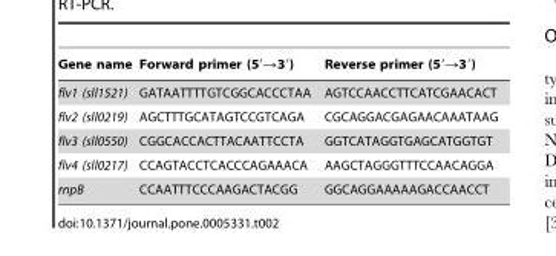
<table><thead><tr><td>Gene name</td><td>Forward primer (5′→3′)</td><td>Reverse primer (5′→3′)</td></tr></thead><tbody><tr><td>flv1 (sll1521)</td><td>GATAATTTTGTCGGCACCCTAA</td><td>AGTCCAACCTTCATCGAACACT</td></tr><tr><td>flv2 (sll0219)</td><td>AGCTTTGCATAGTCCGTCAGA</td><td>CGCAGGACGAGAACAAATAAG</td></tr><tr><td>flv3 (sll0550)</td><td>CGGCACCACTTACAATTCCTA</td><td>GGTCATAGGTGAGCATGGTGT</td></tr><tr><td>flv4 (sll0217)</td><td>CCAGTACCTCACCCAGAAACA</td><td>AAGCTAGGGTTTCCAACAGGA</td></tr><tr><td>rnpB</td><td>CCAATTTCCCAAGACTACGG</td><td>GGCAGGAAAAAGACCAACCT</td></tr></tbody></table>